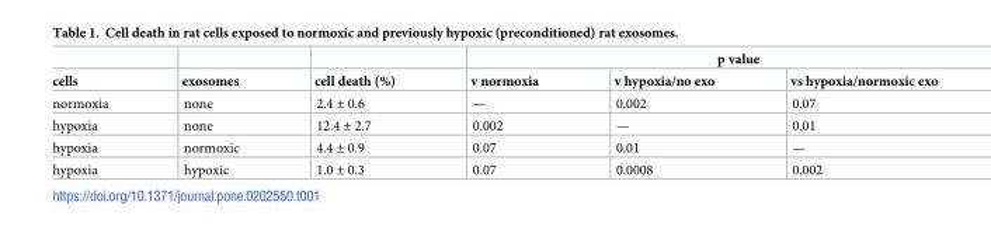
<table><thead><tr><td rowspan="2">cells</td><td rowspan="2">exosomes</td><td rowspan="2">cell death (%)</td><td colspan="3">p value</td></tr><tr><td>v normoxia</td><td>v hypoxia/no exo</td><td>vs hypoxia/normoxic exo</td></tr></thead><tbody><tr><td>normoxia</td><td>none</td><td>2.4 ± 0.6</td><td>—</td><td>0.002</td><td>0.07</td></tr><tr><td>hypoxia</td><td>none</td><td>12.4 ± 2.7</td><td>0.002</td><td>—</td><td>0.01</td></tr><tr><td>hypoxia</td><td>normoxic</td><td>4.4 ± 0.9</td><td>0.07</td><td>0.01</td><td>—</td></tr><tr><td>hypoxia</td><td>hypoxic</td><td>1.0 ± 0.3</td><td>0.07</td><td>0.0008</td><td>0.002</td></tr></tbody></table>